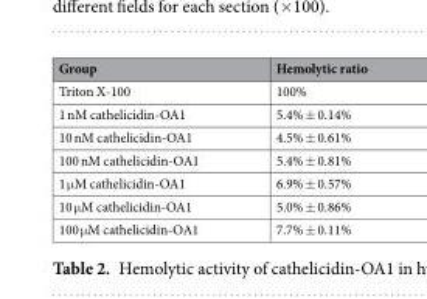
<table><thead><tr><td>Group</td><td>Hemolytic ratio</td></tr></thead><tbody><tr><td>Triton X-100</td><td>100%</td></tr><tr><td>1 nM cathelicidin-OA1</td><td>5.4% ± 0.14%</td></tr><tr><td>10 nM cathelicidin-OA1</td><td>4.5% ± 0.61%</td></tr><tr><td>100 nM cathelicidin-OA1</td><td>5.4% ± 0.81%</td></tr><tr><td>1 μM cathelicidin-OA1</td><td>6.9% ± 0.57%</td></tr><tr><td>10 μM cathelicidin-OA1</td><td>5.0% ± 0.86%</td></tr><tr><td>100 μM cathelicidin-OA1</td><td>7.7% ± 0.11%</td></tr></tbody></table>